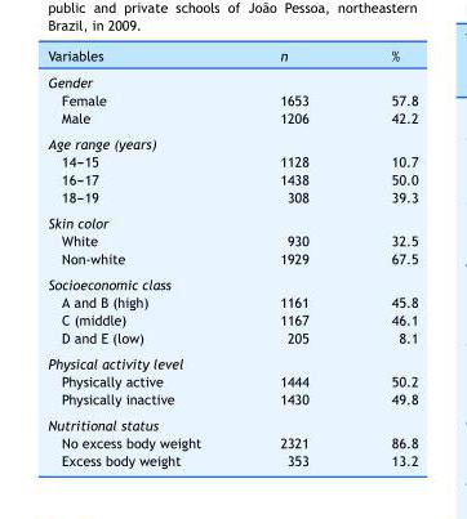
<table><thead><tr><td>Variables</td><td>n</td><td>%</td></tr></thead><tbody><tr><td colspan="3">Gender</td></tr><tr><td>Female</td><td>1653</td><td>57.8</td></tr><tr><td>Male</td><td>1206</td><td>42.2</td></tr><tr><td colspan="3">Age range (years)</td></tr><tr><td>14---15</td><td>1128</td><td>10.7</td></tr><tr><td>16---17</td><td>1438</td><td>50.0</td></tr><tr><td>18---19</td><td>308</td><td>39.3</td></tr><tr><td colspan="3">Skin color</td></tr><tr><td>White</td><td>930</td><td>32.5</td></tr><tr><td>Non-white</td><td>1929</td><td>67.5</td></tr><tr><td colspan="3">Socioeconomic class</td></tr><tr><td>A and B (high)</td><td>1161</td><td>45.8</td></tr><tr><td>C (middle)</td><td>1167</td><td>46.1</td></tr><tr><td>D and E (low)</td><td>205</td><td>8.1</td></tr><tr><td colspan="3">Physical activity level</td></tr><tr><td>Physically active</td><td>1444</td><td>50.2</td></tr><tr><td>Physically inactive</td><td>1430</td><td>49.8</td></tr><tr><td colspan="3">Nutritional status</td></tr><tr><td>No excess body weight</td><td>2321</td><td>86.8</td></tr><tr><td>Excess body weight</td><td>353</td><td>13.2</td></tr></tbody></table>